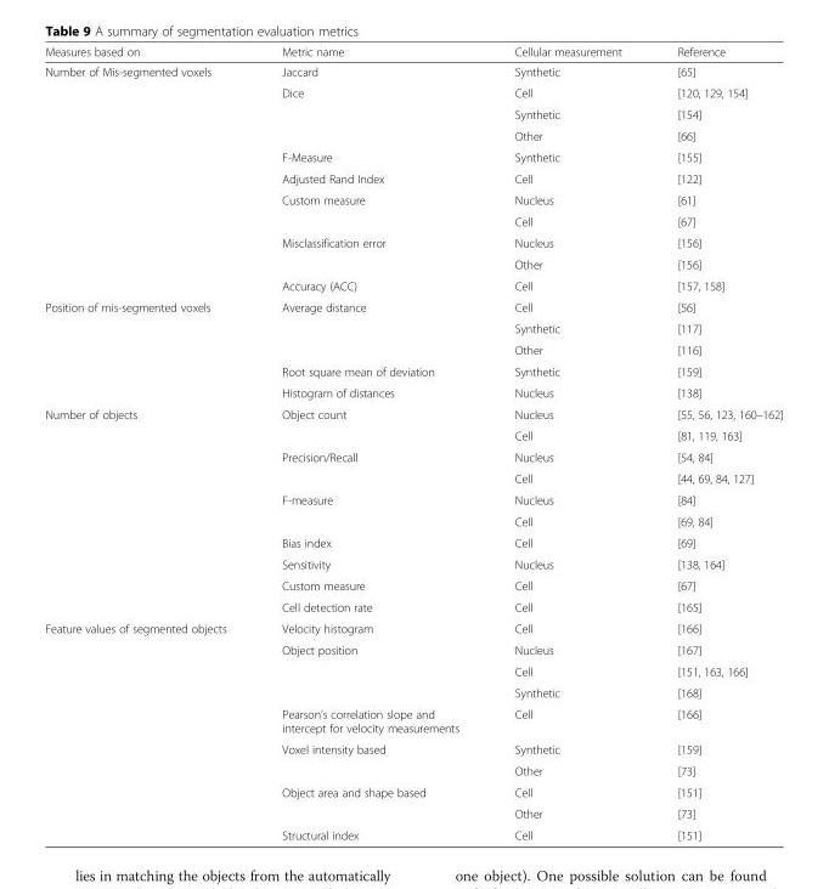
<table><thead><tr><td>Measures based on</td><td>Metric name</td><td>Cellular measurement</td><td>Reference</td></tr></thead><tbody><tr><td rowspan="11">Number of Mis-segmented voxels</td><td>Jaccard</td><td>Synthetic</td><td>[65]</td></tr><tr><td rowspan="3">Dice</td><td>Cell</td><td>[120, 129, 154]</td></tr><tr><td>Synthetic</td><td>[154]</td></tr><tr><td>Other</td><td>[66]</td></tr><tr><td>F-Measure</td><td>Synthetic</td><td>[155]</td></tr><tr><td>Adjusted Rand Index</td><td>Cell</td><td>[122]</td></tr><tr><td rowspan="2">Custom measure</td><td>Nucleus</td><td>[61]</td></tr><tr><td>Cell</td><td>[67]</td></tr><tr><td rowspan="2">Misclassification error</td><td>Nucleus</td><td>[156]</td></tr><tr><td>Other</td><td>[156]</td></tr><tr><td>Accuracy (ACC)</td><td>Cell</td><td>[157, 158]</td></tr><tr><td rowspan="5">Position of mis-segmented voxels</td><td rowspan="3">Average distance</td><td>Cell</td><td>[56]</td></tr><tr><td>Synthetic</td><td>[117]</td></tr><tr><td>Other</td><td>[116]</td></tr><tr><td>Root square mean of deviation</td><td>Synthetic</td><td>[159]</td></tr><tr><td>Histogram of distances</td><td>Nucleus</td><td>[138]</td></tr><tr><td rowspan="10">Number of objects</td><td rowspan="2">Object count</td><td>Nucleus</td><td>[55, 56, 123, 160–162]</td></tr><tr><td>Cell</td><td>[81, 119, 163]</td></tr><tr><td rowspan="2">Precision/Recall</td><td>Nucleus</td><td>[54, 84]</td></tr><tr><td>Cell</td><td>[44, 69, 84, 127]</td></tr><tr><td rowspan="2">F-measure</td><td>Nucleus</td><td>[84]</td></tr><tr><td>Cell</td><td>[69, 84]</td></tr><tr><td>Bias index</td><td>Cell</td><td>[69]</td></tr><tr><td>Sensitivity</td><td>Nucleus</td><td>[138, 164]</td></tr><tr><td>Custom measure</td><td>Cell</td><td>[67]</td></tr><tr><td>Cell detection rate</td><td>Cell</td><td>[165]</td></tr><tr><td rowspan="10">Feature values of segmented objects</td><td>Velocity histogram</td><td>Cell</td><td>[166]</td></tr><tr><td rowspan="3">Object position</td><td>Nucleus</td><td>[167]</td></tr><tr><td>Cell</td><td>[151, 163, 166]</td></tr><tr><td>Synthetic</td><td>[168]</td></tr><tr><td>Pearson’s correlation slope and intercept for velocity measurements</td><td>Cell</td><td>[166]</td></tr><tr><td rowspan="2">Voxel intensity based</td><td>Synthetic</td><td>[159]</td></tr><tr><td>Other</td><td>[73]</td></tr><tr><td rowspan="2">Object area and shape based</td><td>Cell</td><td>[151]</td></tr><tr><td>Other</td><td>[73]</td></tr><tr><td>Structural index</td><td>Cell</td><td>[151]</td></tr></tbody></table>